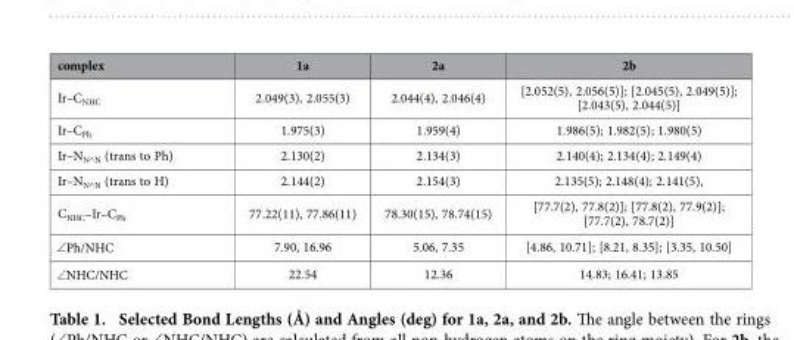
<table><thead><tr><td>complex</td><td>1a</td><td>2a</td><td>2b</td></tr></thead><tbody><tr><td>Ir–C<sub>NHC</sub></td><td>2.049(3), 2.055(3)</td><td>2.044(4), 2.046(4)</td><td>[2.052(5), 2.056(5)]; [2.045(5), 2.049(5)]; [2.043(5), 2.044(5)]</td></tr><tr><td>Ir–C<sub>Ph</sub></td><td>1.975(3)</td><td>1.959(4)</td><td>1.986(5); 1.982(5); 1.980(5)</td></tr><tr><td>Ir–N<sub>N^N</sub> (trans to Ph)</td><td>2.130(2)</td><td>2.134(3)</td><td>2.140(4); 2.134(4); 2.149(4)</td></tr><tr><td>Ir–N<sub>N^N</sub> (trans to H)</td><td>2.144(2)</td><td>2.154(3)</td><td>2.135(5); 2.148(4); 2.141(5),</td></tr><tr><td>C<sub>NHC</sub>–Ir–C<sub>Ph</sub></td><td>77.22(11), 77.86(11)</td><td>78.30(15), 78.74(15)</td><td>[77.7(2), 77.8(2)]; [77.8(2), 77.9(2)]; [77.7(2), 78.7(2)]</td></tr><tr><td>∠Ph/NHC</td><td>7.90, 16.96</td><td>5.06, 7.35</td><td>[4.86, 10.71]; [8.21, 8.35]; [3.35, 10.50]</td></tr><tr><td>∠NHC/NHC</td><td>22.54</td><td>12.36</td><td>14.83; 16.41; 13.85</td></tr></tbody></table>